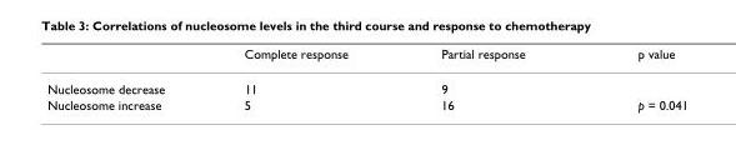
<table><thead><tr><td></td><td>Complete response</td><td>Partial response</td><td>p value</td></tr></thead><tbody><tr><td>Nucleosome decrease</td><td>11</td><td>9</td><td></td></tr><tr><td>Nucleosome increase</td><td>5</td><td>16</td><td>p = 0.041</td></tr></tbody></table>